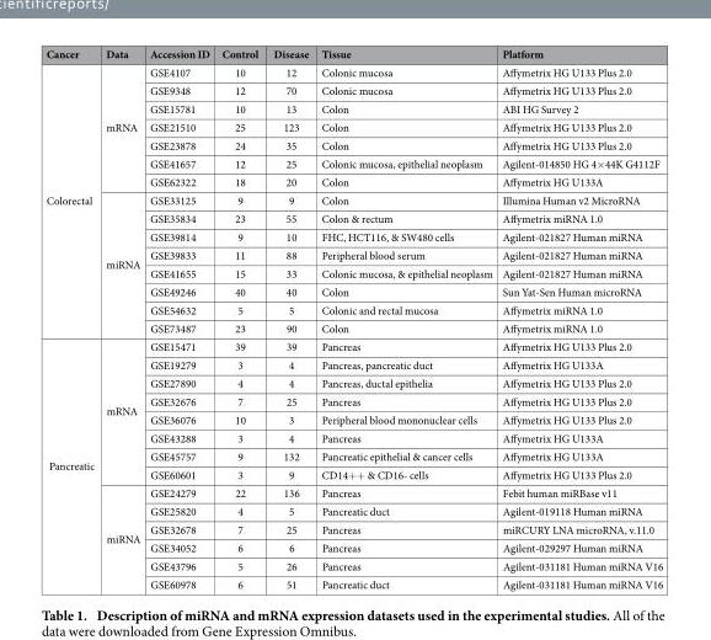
<table><thead><tr><td>Cancer</td><td>Data</td><td>Accession ID</td><td>Control</td><td>Disease</td><td>Tissue</td><td>Platform</td></tr></thead><tbody><tr><td rowspan="15">Colorectal</td><td rowspan="7">mRNA</td><td>GSE4107</td><td>10</td><td>12</td><td>Colonic mucosa</td><td>Affymetrix HG U133 Plus 2.0</td></tr><tr><td>GSE9348</td><td>12</td><td>70</td><td>Colonic mucosa</td><td>Affymetrix HG U133 Plus 2.0</td></tr><tr><td>GSE15781</td><td>10</td><td>13</td><td>Colon</td><td>ABI HG Survey 2</td></tr><tr><td>GSE21510</td><td>25</td><td>123</td><td>Colon</td><td>Affymetrix HG U133 Plus 2.0</td></tr><tr><td>GSE23878</td><td>24</td><td>35</td><td>Colon</td><td>Affymetrix HG U133 Plus 2.0</td></tr><tr><td>GSE41657</td><td>12</td><td>25</td><td>Colonic mucosa, epithelial neoplasm</td><td>Agilent-014850 HG 4× 44K G4112F</td></tr><tr><td>GSE62322</td><td>18</td><td>20</td><td>Colon</td><td>Affymetrix HG U133A</td></tr><tr><td rowspan="8">miRNA</td><td>GSE33125</td><td>9</td><td>9</td><td>Colon</td><td>Illumina Human v2 MicroRNA</td></tr><tr><td>GSE35834</td><td>23</td><td>55</td><td>Colon &amp; rectum</td><td>Affymetrix miRNA 1.0</td></tr><tr><td>GSE39814</td><td>9</td><td>10</td><td>FHC, HCT116, &amp; SW480 cells</td><td>Agilent-021827 Human miRNA</td></tr><tr><td>GSE39833</td><td>11</td><td>88</td><td>Peripheral blood serum</td><td>Agilent-021827 Human miRNA</td></tr><tr><td>GSE41655</td><td>15</td><td>33</td><td>Colonic mucosa, &amp; epithelial neoplasm</td><td>Agilent-021827 Human miRNA</td></tr><tr><td>GSE49246</td><td>40</td><td>40</td><td>Colon</td><td>Sun Yat-Sen Human microRNA</td></tr><tr><td>GSE54632</td><td>5</td><td>5</td><td>Colonic and rectal mucosa</td><td>Affymetrix miRNA 1.0</td></tr><tr><td>GSE73487</td><td>23</td><td>90</td><td>Colon</td><td>Affymetrix miRNA 1.0</td></tr><tr><td rowspan="14">Pancreatic</td><td rowspan="8">mRNA</td><td>GSE15471</td><td>39</td><td>39</td><td>Pancreas</td><td>Affymetrix HG U133 Plus 2.0</td></tr><tr><td>GSE19279</td><td>3</td><td>4</td><td>Pancreas, pancreatic duct</td><td>Affymetrix HG U133A</td></tr><tr><td>GSE27890</td><td>4</td><td>4</td><td>Pancreas, ductal epithelia</td><td>Affymetrix HG U133 Plus 2.0</td></tr><tr><td>GSE32676</td><td>7</td><td>25</td><td>Pancreas</td><td>Affymetrix HG U133 Plus 2.0</td></tr><tr><td>GSE36076</td><td>10</td><td>3</td><td>Peripheral blood mononuclear cells</td><td>Affymetrix HG U133 Plus 2.0</td></tr><tr><td>GSE43288</td><td>3</td><td>4</td><td>Pancreas</td><td>Affymetrix HG U133A</td></tr><tr><td>GSE45757</td><td>9</td><td>132</td><td>Pancreatic epithelial &amp; cancer cells</td><td>Affymetrix HG U133A</td></tr><tr><td>GSE60601</td><td>3</td><td>9</td><td>CD14+ + &amp; CD16- cells</td><td>Affymetrix HG U133 Plus 2.0</td></tr><tr><td rowspan="6">miRNA</td><td>GSE24279</td><td>22</td><td>136</td><td>Pancreas</td><td>Febit human miRBase v11</td></tr><tr><td>GSE25820</td><td>4</td><td>5</td><td>Pancreatic duct</td><td>Agilent-019118 Human miRNA</td></tr><tr><td>GSE32678</td><td>7</td><td>25</td><td>Pancreas</td><td>miRCURY LNA microRNA, v.11.0</td></tr><tr><td>GSE34052</td><td>6</td><td>6</td><td>Pancreas</td><td>Agilent-029297 Human miRNA</td></tr><tr><td>GSE43796</td><td>5</td><td>26</td><td>Pancreas</td><td>Agilent-031181 Human miRNA V16</td></tr><tr><td>GSE60978</td><td>6</td><td>51</td><td>Pancreatic duct</td><td>Agilent-031181 Human miRNA V16</td></tr></tbody></table>